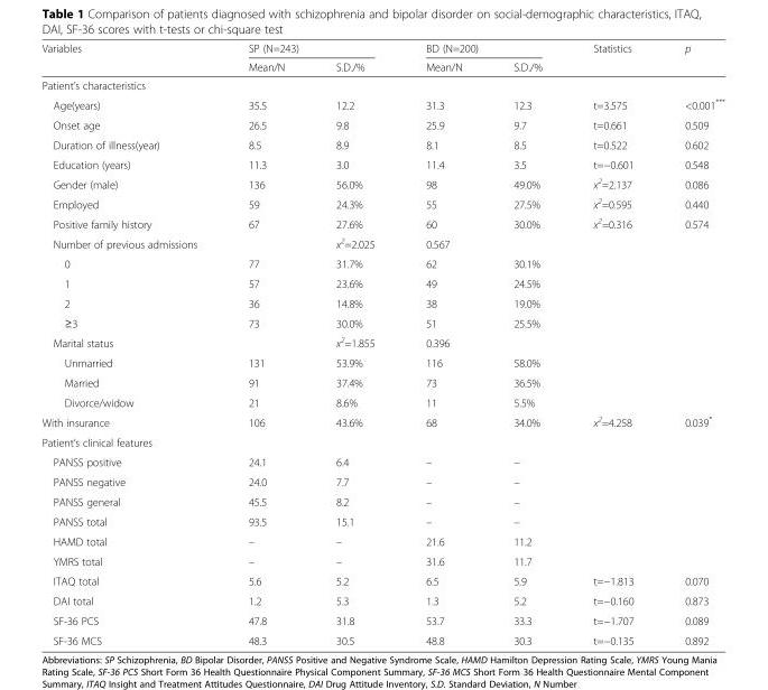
<table><thead><tr><td rowspan="2">Variables</td><td colspan="2">SP (N=243)</td><td colspan="2">BD (N=200)</td><td rowspan="2">Statistics</td><td rowspan="2">p</td></tr><tr><td>Mean/N</td><td>S.D./%</td><td>Mean/N</td><td>S.D./%</td></tr></thead><tbody><tr><td colspan="7">Patient’s characteristics</td></tr><tr><td>Age(years)</td><td>35.5</td><td>12.2</td><td>31.3</td><td>12.3</td><td>t=3.575</td><td>&lt;0.001***</td></tr><tr><td>Onset age</td><td>26.5</td><td>9.8</td><td>25.9</td><td>9.7</td><td>t=0.661</td><td>0.509</td></tr><tr><td>Duration of illness(year)</td><td>8.5</td><td>8.9</td><td>8.1</td><td>8.5</td><td>t=0.522</td><td>0.602</td></tr><tr><td>Education (years)</td><td>11.3</td><td>3.0</td><td>11.4</td><td>3.5</td><td>t=−0.601</td><td>0.548</td></tr><tr><td>Gender (male)</td><td>136</td><td>56.0%</td><td>98</td><td>49.0%</td><td>x<sup>2</sup>=2.137</td><td>0.086</td></tr><tr><td>Employed</td><td>59</td><td>24.3%</td><td>55</td><td>27.5%</td><td>x<sup>2</sup>=0.595</td><td>0.440</td></tr><tr><td>Positive family history</td><td>67</td><td>27.6%</td><td>60</td><td>30.0%</td><td>x<sup>2</sup>=0.316</td><td>0.574</td></tr><tr><td>Number of previous admissions</td><td></td><td>x<sup>2</sup>=2.025</td><td>0.567</td><td></td><td></td><td></td></tr><tr><td>0</td><td>77</td><td>31.7%</td><td>62</td><td>30.1%</td><td></td><td></td></tr><tr><td>1</td><td>57</td><td>23.6%</td><td>49</td><td>24.5%</td><td></td><td></td></tr><tr><td>2</td><td>36</td><td>14.8%</td><td>38</td><td>19.0%</td><td></td><td></td></tr><tr><td>≥3</td><td>73</td><td>30.0%</td><td>51</td><td>25.5%</td><td></td><td></td></tr><tr><td>Marital status</td><td></td><td>x<sup>2</sup>=1.855</td><td>0.396</td><td></td><td></td><td></td></tr><tr><td>Unmarried</td><td>131</td><td>53.9%</td><td>116</td><td>58.0%</td><td></td><td></td></tr><tr><td>Married</td><td>91</td><td>37.4%</td><td>73</td><td>36.5%</td><td></td><td></td></tr><tr><td>Divorce/widow</td><td>21</td><td>8.6%</td><td>11</td><td>5.5%</td><td></td><td></td></tr><tr><td>With insurance</td><td>106</td><td>43.6%</td><td>68</td><td>34.0%</td><td>x<sup>2</sup>=4.258</td><td>0.039*</td></tr><tr><td colspan="7">Patient’s clinical features</td></tr><tr><td>PANSS positive</td><td>24.1</td><td>6.4</td><td>–</td><td>–</td><td></td><td></td></tr><tr><td>PANSS negative</td><td>24.0</td><td>7.7</td><td>–</td><td>–</td><td></td><td></td></tr><tr><td>PANSS general</td><td>45.5</td><td>8.2</td><td>–</td><td>–</td><td></td><td></td></tr><tr><td>PANSS total</td><td>93.5</td><td>15.1</td><td>–</td><td>–</td><td></td><td></td></tr><tr><td>HAMD total</td><td>–</td><td>–</td><td>21.6</td><td>11.2</td><td></td><td></td></tr><tr><td>YMRS total</td><td>–</td><td>–</td><td>31.6</td><td>11.7</td><td></td><td></td></tr><tr><td>ITAQ total</td><td>5.6</td><td>5.2</td><td>6.5</td><td>5.9</td><td>t=−1.813</td><td>0.070</td></tr><tr><td>DAI total</td><td>1.2</td><td>5.3</td><td>1.3</td><td>5.2</td><td>t=−0.160</td><td>0.873</td></tr><tr><td>SF-36 PCS</td><td>47.8</td><td>31.8</td><td>53.7</td><td>33.3</td><td>t=−1.707</td><td>0.089</td></tr><tr><td>SF-36 MCS</td><td>48.3</td><td>30.5</td><td>48.8</td><td>30.3</td><td>t=−0.135</td><td>0.892</td></tr></tbody></table>